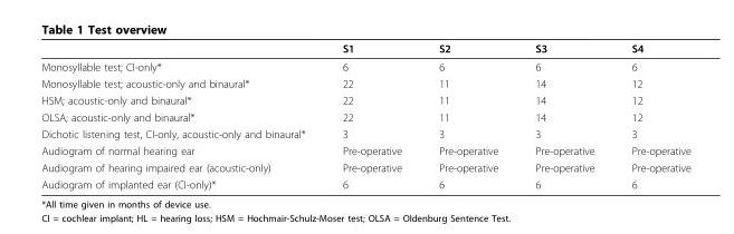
<table><thead><tr><td></td><td>S1</td><td>S2</td><td>S3</td><td>S4</td></tr></thead><tbody><tr><td>Monosyllable test; CI-only*</td><td>6</td><td>6</td><td>6</td><td>6</td></tr><tr><td>Monosyllable test; acoustic-only and binaural*</td><td>22</td><td>11</td><td>14</td><td>12</td></tr><tr><td>HSM; acoustic-only and binaural*</td><td>22</td><td>11</td><td>14</td><td>12</td></tr><tr><td>OLSA; acoustic-only and binaural*</td><td>22</td><td>11</td><td>14</td><td>12</td></tr><tr><td>Dichotic listening test, CI-only, acoustic-only and binaural*</td><td>3</td><td>3</td><td>3</td><td>3</td></tr><tr><td>Audiogram of normal hearing ear</td><td>Pre-operative</td><td>Pre-operative</td><td>Pre-operative</td><td>Pre-operative</td></tr><tr><td>Audiogram of hearing impaired ear (acoustic-only)</td><td>Pre-operative</td><td>Pre-operative</td><td>Pre-operative</td><td>Pre-operative</td></tr><tr><td>Audiogram of implanted ear (CI-only)*</td><td>6</td><td>6</td><td>6</td><td>6</td></tr></tbody></table>